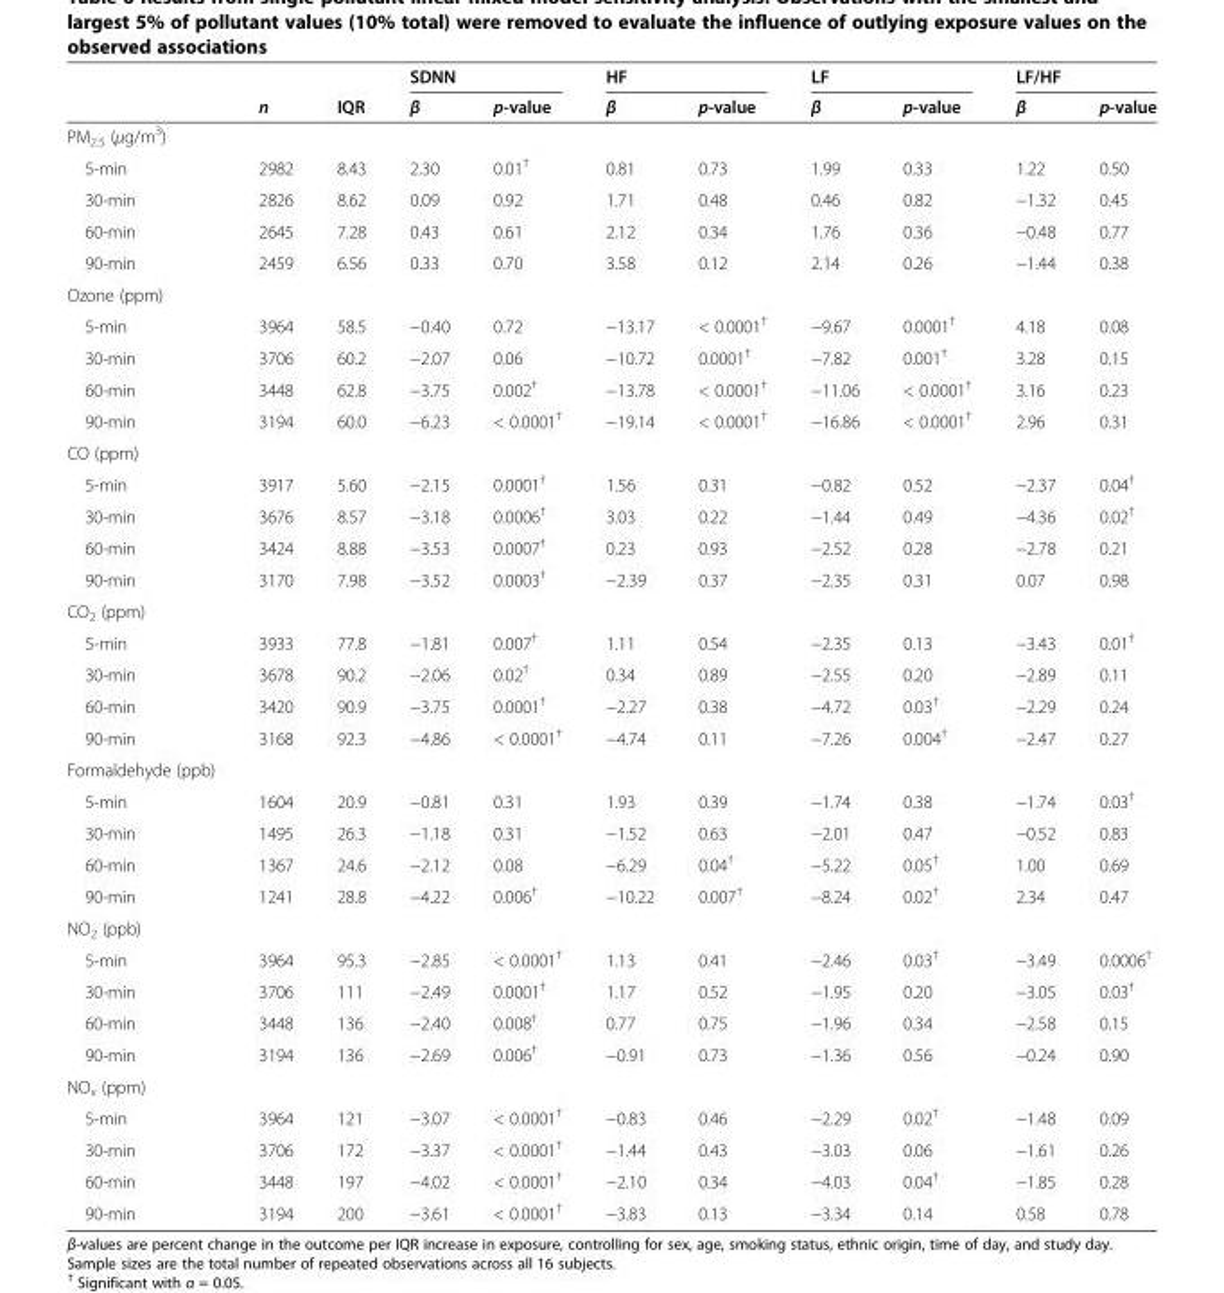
<table><thead><tr><td rowspan="2"></td><td rowspan="2">n</td><td rowspan="2">IQR</td><td colspan="2">SDNN</td><td colspan="2">HF</td><td colspan="2">LF</td><td colspan="2">LF/HF</td></tr><tr><td>β</td><td>p-value</td><td>β</td><td>p-value</td><td>β</td><td>p-value</td><td>β</td><td>p-value</td></tr></thead><tbody><tr><td colspan="11">PM<sub>2.5</sub> (μg/m<sup>3</sup>)</td></tr><tr><td>5-min</td><td>2982</td><td>8.43</td><td>2.30</td><td>0.01<sup>†</sup></td><td>0.81</td><td>0.73</td><td>1.99</td><td>0.33</td><td>1.22</td><td>0.50</td></tr><tr><td>30-min</td><td>2826</td><td>8.62</td><td>0.09</td><td>0.92</td><td>1.71</td><td>0.48</td><td>0.46</td><td>0.82</td><td>−1.32</td><td>0.45</td></tr><tr><td>60-min</td><td>2645</td><td>7.28</td><td>0.43</td><td>0.61</td><td>2.12</td><td>0.34</td><td>1.76</td><td>0.36</td><td>−0.48</td><td>0.77</td></tr><tr><td>90-min</td><td>2459</td><td>6.56</td><td>0.33</td><td>0.70</td><td>3.58</td><td>0.12</td><td>2.14</td><td>0.26</td><td>−1.44</td><td>0.38</td></tr><tr><td colspan="11">Ozone (ppm)</td></tr><tr><td>5-min</td><td>3964</td><td>58.5</td><td>−0.40</td><td>0.72</td><td>−13.17</td><td>&lt; 0.0001<sup>†</sup></td><td>−9.67</td><td>0.0001<sup>†</sup></td><td>4.18</td><td>0.08</td></tr><tr><td>30-min</td><td>3706</td><td>60.2</td><td>−2.07</td><td>0.06</td><td>−10.72</td><td>0.0001<sup>†</sup></td><td>−7.82</td><td>0.001<sup>†</sup></td><td>3.28</td><td>0.15</td></tr><tr><td>60-min</td><td>3448</td><td>62.8</td><td>−3.75</td><td>0.002<sup>†</sup></td><td>−13.78</td><td>&lt; 0.0001<sup>†</sup></td><td>−11.06</td><td>&lt; 0.0001<sup>†</sup></td><td>3.16</td><td>0.23</td></tr><tr><td>90-min</td><td>3194</td><td>60.0</td><td>−6.23</td><td>&lt; 0.0001<sup>†</sup></td><td>−19.14</td><td>&lt; 0.0001<sup>†</sup></td><td>−16.86</td><td>&lt; 0.0001<sup>†</sup></td><td>2.96</td><td>0.31</td></tr><tr><td colspan="11">CO (ppm)</td></tr><tr><td>5-min</td><td>3917</td><td>5.60</td><td>−2.15</td><td>0.0001<sup>†</sup></td><td>1.56</td><td>0.31</td><td>−0.82</td><td>0.52</td><td>−2.37</td><td>0.04<sup>†</sup></td></tr><tr><td>30-min</td><td>3676</td><td>8.57</td><td>−3.18</td><td>0.0006<sup>†</sup></td><td>3.03</td><td>0.22</td><td>−1.44</td><td>0.49</td><td>−4.36</td><td>0.02<sup>†</sup></td></tr><tr><td>60-min</td><td>3424</td><td>8.88</td><td>−3.53</td><td>0.0007<sup>†</sup></td><td>0.23</td><td>0.93</td><td>−2.52</td><td>0.28</td><td>−2.78</td><td>0.21</td></tr><tr><td>90-min</td><td>3170</td><td>7.98</td><td>−3.52</td><td>0.0003<sup>†</sup></td><td>−2.39</td><td>0.37</td><td>−2.35</td><td>0.31</td><td>0.07</td><td>0.98</td></tr><tr><td colspan="11">CO<sub>2</sub> (ppm)</td></tr><tr><td>5-min</td><td>3933</td><td>77.8</td><td>−1.81</td><td>0.007<sup>†</sup></td><td>1.11</td><td>0.54</td><td>−2.35</td><td>0.13</td><td>−3.43</td><td>0.01<sup>†</sup></td></tr><tr><td>30-min</td><td>3678</td><td>90.2</td><td>−2.06</td><td>0.02<sup>†</sup></td><td>0.34</td><td>0.89</td><td>−2.55</td><td>0.20</td><td>−2.89</td><td>0.11</td></tr><tr><td>60-min</td><td>3420</td><td>90.9</td><td>−3.75</td><td>0.0001<sup>†</sup></td><td>−2.27</td><td>0.38</td><td>−4.72</td><td>0.03<sup>†</sup></td><td>−2.29</td><td>0.24</td></tr><tr><td>90-min</td><td>3168</td><td>92.3</td><td>−4.86</td><td>&lt; 0.0001<sup>†</sup></td><td>−4.74</td><td>0.11</td><td>−7.26</td><td>0.004<sup>†</sup></td><td>−2.47</td><td>0.27</td></tr><tr><td colspan="11">Formaldehyde (ppb)</td></tr><tr><td>5-min</td><td>1604</td><td>20.9</td><td>−0.81</td><td>0.31</td><td>1.93</td><td>0.39</td><td>−1.74</td><td>0.38</td><td>−1.74</td><td>0.03<sup>†</sup></td></tr><tr><td>30-min</td><td>1495</td><td>26.3</td><td>−1.18</td><td>0.31</td><td>−1.52</td><td>0.63</td><td>−2.01</td><td>0.47</td><td>−0.52</td><td>0.83</td></tr><tr><td>60-min</td><td>1367</td><td>24.6</td><td>−2.12</td><td>0.08</td><td>−6.29</td><td>0.04<sup>†</sup></td><td>−5.22</td><td>0.05<sup>†</sup></td><td>1.00</td><td>0.69</td></tr><tr><td>90-min</td><td>1241</td><td>28.8</td><td>−4.22</td><td>0.006<sup>†</sup></td><td>−10.22</td><td>0.007<sup>†</sup></td><td>−8.24</td><td>0.02<sup>†</sup></td><td>2.34</td><td>0.47</td></tr><tr><td colspan="11">NO<sub>2</sub> (ppb)</td></tr><tr><td>5-min</td><td>3964</td><td>95.3</td><td>−2.85</td><td>&lt; 0.0001<sup>†</sup></td><td>1.13</td><td>0.41</td><td>−2.46</td><td>0.03<sup>†</sup></td><td>−3.49</td><td>0.0006<sup>†</sup></td></tr><tr><td>30-min</td><td>3706</td><td>111</td><td>−2.49</td><td>0.0001<sup>†</sup></td><td>1.17</td><td>0.52</td><td>−1.95</td><td>0.20</td><td>−3.05</td><td>0.03<sup>†</sup></td></tr><tr><td>60-min</td><td>3448</td><td>136</td><td>−2.40</td><td>0.008<sup>†</sup></td><td>0.77</td><td>0.75</td><td>−1.96</td><td>0.34</td><td>−2.58</td><td>0.15</td></tr><tr><td>90-min</td><td>3194</td><td>136</td><td>−2.69</td><td>0.006<sup>†</sup></td><td>−0.91</td><td>0.73</td><td>−1.36</td><td>0.56</td><td>−0.24</td><td>0.90</td></tr><tr><td colspan="11">NO<sub>x</sub> (ppm)</td></tr><tr><td>5-min</td><td>3964</td><td>121</td><td>−3.07</td><td>&lt; 0.0001<sup>†</sup></td><td>−0.83</td><td>0.46</td><td>−2.29</td><td>0.02<sup>†</sup></td><td>−1.48</td><td>0.09</td></tr><tr><td>30-min</td><td>3706</td><td>172</td><td>−3.37</td><td>&lt; 0.0001<sup>†</sup></td><td>−1.44</td><td>0.43</td><td>−3.03</td><td>0.06</td><td>−1.61</td><td>0.26</td></tr><tr><td>60-min</td><td>3448</td><td>197</td><td>−4.02</td><td>&lt; 0.0001<sup>†</sup></td><td>−2.10</td><td>0.34</td><td>−4.03</td><td>0.04<sup>†</sup></td><td>−1.85</td><td>0.28</td></tr><tr><td>90-min</td><td>3194</td><td>200</td><td>−3.61</td><td>&lt; 0.0001<sup>†</sup></td><td>−3.83</td><td>0.13</td><td>−3.34</td><td>0.14</td><td>0.58</td><td>0.78</td></tr></tbody></table>